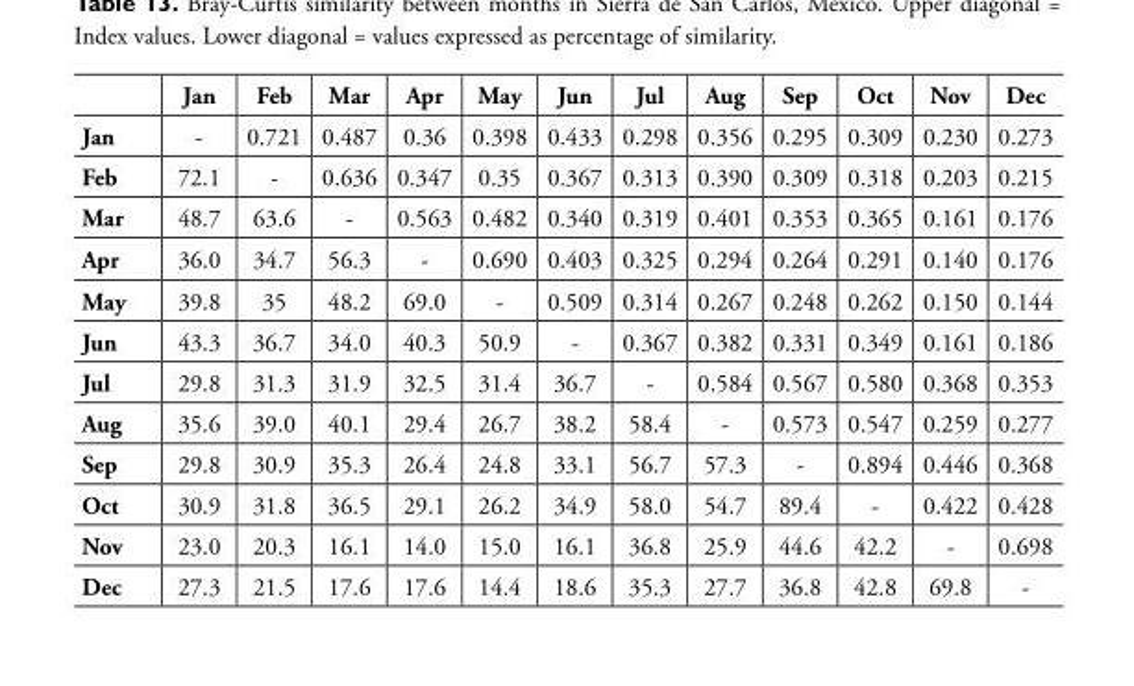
<table><thead><tr><td></td><td>Jan</td><td>Feb</td><td>Mar</td><td>Apr</td><td>May</td><td>Jun</td><td>Jul</td><td>Aug</td><td>Sep</td><td>Oct</td><td>Nov</td><td>Dec</td></tr></thead><tbody><tr><td>Jan</td><td>-</td><td>0.721</td><td>0.487</td><td>0.36</td><td>0.398</td><td>0.433</td><td>0.298</td><td>0.356</td><td>0.295</td><td>0.309</td><td>0.230</td><td>0.273</td></tr><tr><td>Feb</td><td>72.1</td><td>-</td><td>0.636</td><td>0.347</td><td>0.35</td><td>0.367</td><td>0.313</td><td>0.390</td><td>0.309</td><td>0.318</td><td>0.203</td><td>0.215</td></tr><tr><td>Mar</td><td>48.7</td><td>63.6</td><td>-</td><td>0.563</td><td>0.482</td><td>0.340</td><td>0.319</td><td>0.401</td><td>0.353</td><td>0.365</td><td>0.161</td><td>0.176</td></tr><tr><td>Apr</td><td>36.0</td><td>34.7</td><td>56.3</td><td>-</td><td>0.690</td><td>0.403</td><td>0.325</td><td>0.294</td><td>0.264</td><td>0.291</td><td>0.140</td><td>0.176</td></tr><tr><td>May</td><td>39.8</td><td>35</td><td>48.2</td><td>69.0</td><td>-</td><td>0.509</td><td>0.314</td><td>0.267</td><td>0.248</td><td>0.262</td><td>0.150</td><td>0.144</td></tr><tr><td>Jun</td><td>43.3</td><td>36.7</td><td>34.0</td><td>40.3</td><td>50.9</td><td>-</td><td>0.367</td><td>0.382</td><td>0.331</td><td>0.349</td><td>0.161</td><td>0.186</td></tr><tr><td>Jul</td><td>29.8</td><td>31.3</td><td>31.9</td><td>32.5</td><td>31.4</td><td>36.7</td><td>-</td><td>0.584</td><td>0.567</td><td>0.580</td><td>0.368</td><td>0.353</td></tr><tr><td>Aug</td><td>35.6</td><td>39.0</td><td>40.1</td><td>29.4</td><td>26.7</td><td>38.2</td><td>58.4</td><td>-</td><td>0.573</td><td>0.547</td><td>0.259</td><td>0.277</td></tr><tr><td>Sep</td><td>29.8</td><td>30.9</td><td>35.3</td><td>26.4</td><td>24.8</td><td>33.1</td><td>56.7</td><td>57.3</td><td>-</td><td>0.894</td><td>0.446</td><td>0.368</td></tr><tr><td>Oct</td><td>30.9</td><td>31.8</td><td>36.5</td><td>29.1</td><td>26.2</td><td>34.9</td><td>58.0</td><td>54.7</td><td>89.4</td><td>-</td><td>0.422</td><td>0.428</td></tr><tr><td>Nov</td><td>23.0</td><td>20.3</td><td>16.1</td><td>14.0</td><td>15.0</td><td>16.1</td><td>36.8</td><td>25.9</td><td>44.6</td><td>42.2</td><td>-</td><td>0.698</td></tr><tr><td>Dec</td><td>27.3</td><td>21.5</td><td>17.6</td><td>17.6</td><td>14.4</td><td>18.6</td><td>35.3</td><td>27.7</td><td>36.8</td><td>42.8</td><td>69.8</td><td>-</td></tr></tbody></table>